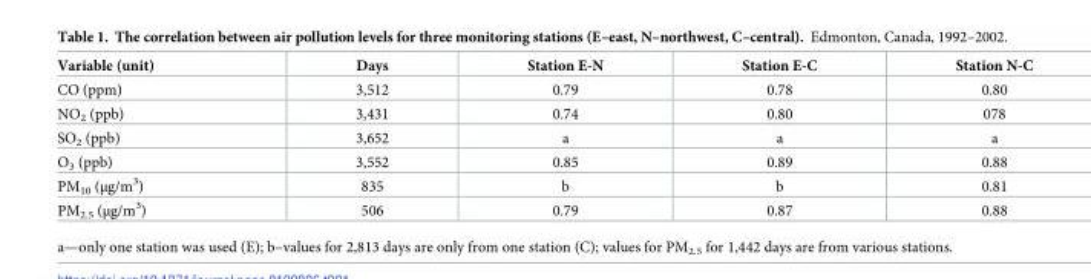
<table><thead><tr><td>Variable (unit)</td><td>Days</td><td>Station E-N</td><td>Station E-C</td><td>Station N-C</td></tr></thead><tbody><tr><td>CO (ppm)</td><td>3,512</td><td>0.79</td><td>0.78</td><td>0.80</td></tr><tr><td>NO<sub>2</sub> (ppb)</td><td>3,431</td><td>0.74</td><td>0.80</td><td>078</td></tr><tr><td>SO<sub>2</sub> (ppb)</td><td>3,652</td><td>a</td><td>a</td><td>a</td></tr><tr><td>O<sub>3</sub> (ppb)</td><td>3,552</td><td>0.85</td><td>0.89</td><td>0.88</td></tr><tr><td>PM<sub>10</sub> (μg/m<sup>3</sup>)</td><td>835</td><td>b</td><td>b</td><td>0.81</td></tr><tr><td>PM<sub>2.5</sub> (μg/m<sup>3</sup>)</td><td>506</td><td>0.79</td><td>0.87</td><td>0.88</td></tr></tbody></table>